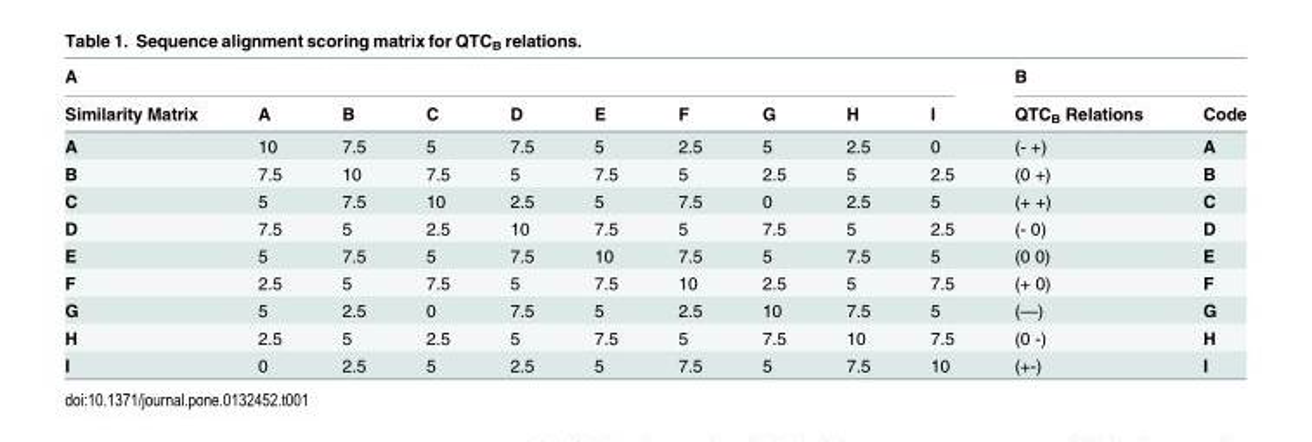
<table><thead><tr><td colspan="10">A</td><td colspan="2">B</td></tr><tr><td>Similarity Matrix</td><td>A</td><td>B</td><td>C</td><td>D</td><td>E</td><td>F</td><td>G</td><td>H</td><td>I</td><td>QTC<sub>B</sub> Relations</td><td>Code</td></tr></thead><tbody><tr><td>A</td><td>10</td><td>7.5</td><td>5</td><td>7.5</td><td>5</td><td>2.5</td><td>5</td><td>2.5</td><td>0</td><td>(- +)</td><td>A</td></tr><tr><td>B</td><td>7.5</td><td>10</td><td>7.5</td><td>5</td><td>7.5</td><td>5</td><td>2.5</td><td>5</td><td>2.5</td><td>(0 +)</td><td>B</td></tr><tr><td>C</td><td>5</td><td>7.5</td><td>10</td><td>2.5</td><td>5</td><td>7.5</td><td>0</td><td>2.5</td><td>5</td><td>(+ +)</td><td>C</td></tr><tr><td>D</td><td>7.5</td><td>5</td><td>2.5</td><td>10</td><td>7.5</td><td>5</td><td>7.5</td><td>5</td><td>2.5</td><td>(- 0)</td><td>D</td></tr><tr><td>E</td><td>5</td><td>7.5</td><td>5</td><td>7.5</td><td>10</td><td>7.5</td><td>5</td><td>7.5</td><td>5</td><td>(0 0)</td><td>E</td></tr><tr><td>F</td><td>2.5</td><td>5</td><td>7.5</td><td>5</td><td>7.5</td><td>10</td><td>2.5</td><td>5</td><td>7.5</td><td>(+ 0)</td><td>F</td></tr><tr><td>G</td><td>5</td><td>2.5</td><td>0</td><td>7.5</td><td>5</td><td>2.5</td><td>10</td><td>7.5</td><td>5</td><td>(—)</td><td>G</td></tr><tr><td>H</td><td>2.5</td><td>5</td><td>2.5</td><td>5</td><td>7.5</td><td>5</td><td>7.5</td><td>10</td><td>7.5</td><td>(0 -)</td><td>H</td></tr><tr><td>I</td><td>0</td><td>2.5</td><td>5</td><td>2.5</td><td>5</td><td>7.5</td><td>5</td><td>7.5</td><td>10</td><td>(+-)</td><td>I</td></tr></tbody></table>